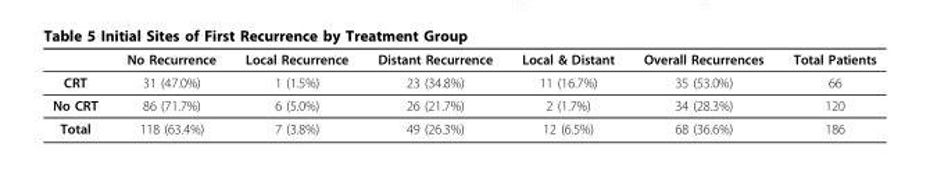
<table><thead><tr><td></td><td>No Recurrence</td><td>Local Recurrence</td><td>Distant Recurrence</td><td>Local &amp; Distant</td><td>Overall Recurrences</td><td>Total Patients</td></tr></thead><tbody><tr><td>CRT</td><td>31 (47.0%)</td><td>1 (1.5%)</td><td>23 (34.8%)</td><td>11 (16.7%)</td><td>35 (53.0%)</td><td>66</td></tr><tr><td>No CRT</td><td>86 (71.7%)</td><td>6 (5.0%)</td><td>26 (21.7%)</td><td>2 (1.7%)</td><td>34 (28.3%)</td><td>120</td></tr><tr><td>Total</td><td>118 (63.4%)</td><td>7 (3.8%)</td><td>49 (26.3%)</td><td>12 (6.5%)</td><td>68 (36.6%)</td><td>186</td></tr></tbody></table>